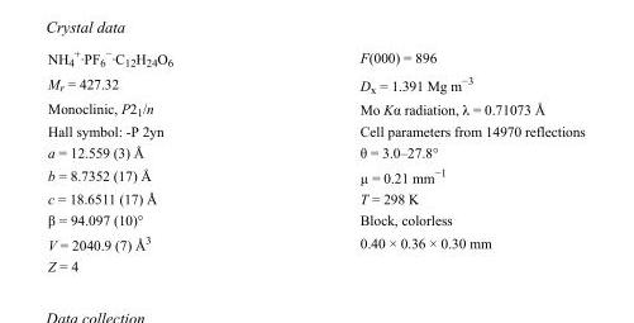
<table><tbody><tr><td>NH<sub>4</sub> <sup>+</sup>·PF<sub>6</sub> <sup>−</sup>·C<sub>12</sub>H<sub>24</sub>O<sub>6</sub></td><td>F(000) = 896</td></tr><tr><td>M<sub>r</sub> = 427.32</td><td>D<sub>x</sub> = 1.391 Mg m<sup>−3</sup></td></tr><tr><td>Monoclinic, P2<sub>1</sub>/n</td><td>Mo Kα radiation, λ = 0.71073 Å</td></tr><tr><td>Hall symbol: -P 2yn</td><td>Cell parameters from 14970 reflections</td></tr><tr><td>a = 12.559 (3) Å</td><td>θ = 3.0–27.8°</td></tr><tr><td>b = 8.7352 (17) Å</td><td>µ = 0.21 mm<sup>−1</sup></td></tr><tr><td>c = 18.6511 (17) Å</td><td>T = 298 K</td></tr><tr><td>β = 94.097 (10)°</td><td>Block, colorless</td></tr><tr><td>V = 2040.9 (7) Å<sup>3</sup></td><td>0.40 × 0.36 × 0.30 mm</td></tr><tr><td>Z = 4</td><td></td></tr></tbody></table>